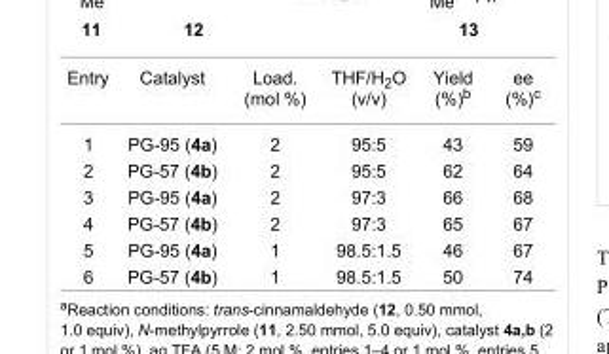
<table><tbody><tr><td>Entry</td><td>Catalyst</td><td>Load. (mol %)</td><td>THF/H<sub>2</sub>O (v/v)</td><td>Yield (%)<sup>b</sup></td><td>ee (%)<sup>c</sup></td></tr><tr><td>1</td><td>PG-95 (4a)</td><td>2</td><td>95:5</td><td>43</td><td>59</td></tr><tr><td>2</td><td>PG-57 (4b)</td><td>2</td><td>95:5</td><td>62</td><td>64</td></tr><tr><td>3</td><td>PG-95 (4a)</td><td>2</td><td>97:3</td><td>66</td><td>68</td></tr><tr><td>4</td><td>PG-57 (4b)</td><td>2</td><td>97:3</td><td>65</td><td>67</td></tr><tr><td>5</td><td>PG-95 (4a)</td><td>1</td><td>98.5:1.5</td><td>46</td><td>67</td></tr><tr><td>6</td><td>PG-57 (4b)</td><td>1</td><td>98.5:1.5</td><td>50</td><td>74</td></tr></tbody></table>